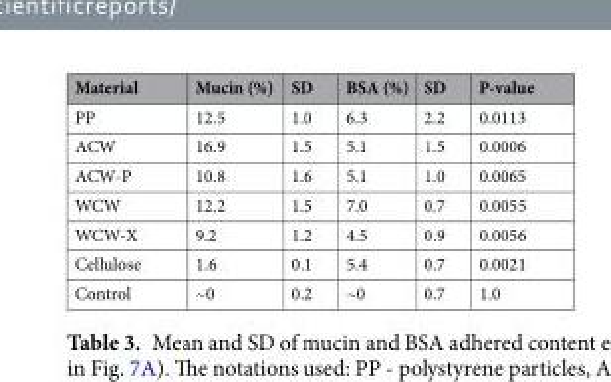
<table><thead><tr><td>Material</td><td>Mucin (%)</td><td>SD</td><td>BSA (%)</td><td>SD</td><td>P-value</td></tr></thead><tbody><tr><td>PP</td><td>12.5</td><td>1.0</td><td>6.3</td><td>2.2</td><td>0.0113</td></tr><tr><td>ACW</td><td>16.9</td><td>1.5</td><td>5.1</td><td>1.5</td><td>0.0006</td></tr><tr><td>ACW-P</td><td>10.8</td><td>1.6</td><td>5.1</td><td>1.0</td><td>0.0065</td></tr><tr><td>WCW</td><td>12.2</td><td>1.5</td><td>7.0</td><td>0.7</td><td>0.0055</td></tr><tr><td>WCW-X</td><td>9.2</td><td>1.2</td><td>4.5</td><td>0.9</td><td>0.0056</td></tr><tr><td>Cellulose</td><td>1.6</td><td>0.1</td><td>5.4</td><td>0.7</td><td>0.0021</td></tr><tr><td>Control</td><td>~0</td><td>0.2</td><td>~0</td><td>0.7</td><td>1.0</td></tr></tbody></table>